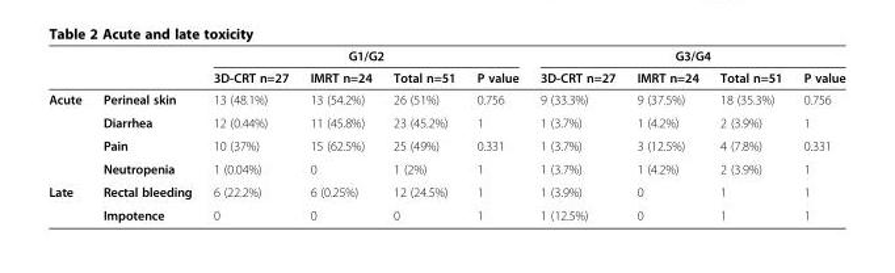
<table><thead><tr><td rowspan="2"></td><td rowspan="2"></td><td colspan="4">G1/G2</td><td colspan="4">G3/G4</td></tr><tr><td>3D-CRT n=27</td><td>IMRT n=24</td><td>Total n=51</td><td>P value</td><td>3D-CRT n=27</td><td>IMRT n=24</td><td>Total n=51</td><td>P value</td></tr></thead><tbody><tr><td rowspan="4">Acute</td><td>Perineal skin</td><td>13 (48.1%)</td><td>13 (54.2%)</td><td>26 (51%)</td><td>0.756</td><td>9 (33.3%)</td><td>9 (37.5%)</td><td>18 (35.3%)</td><td>0.756</td></tr><tr><td>Diarrhea</td><td>12 (0.44%)</td><td>11 (45.8%)</td><td>23 (45.2%)</td><td>1</td><td>1 (3.7%)</td><td>1 (4.2%)</td><td>2 (3.9%)</td><td>1</td></tr><tr><td>Pain</td><td>10 (37%)</td><td>15 (62.5%)</td><td>25 (49%)</td><td>0.331</td><td>1 (3.7%)</td><td>3 (12.5%)</td><td>4 (7.8%)</td><td>0.331</td></tr><tr><td>Neutropenia</td><td>1 (0.04%)</td><td>0</td><td>1 (2%)</td><td>1</td><td>1 (3.7%)</td><td>1 (4.2%)</td><td>2 (3.9%)</td><td>1</td></tr><tr><td rowspan="2">Late</td><td>Rectal bleeding</td><td>6 (22.2%)</td><td>6 (0.25%)</td><td>12 (24.5%)</td><td>1</td><td>1 (3.9%)</td><td>0</td><td>1</td><td>1</td></tr><tr><td>Impotence</td><td>0</td><td>0</td><td>0</td><td>1</td><td>1 (12.5%)</td><td>0</td><td>1</td><td>1</td></tr></tbody></table>